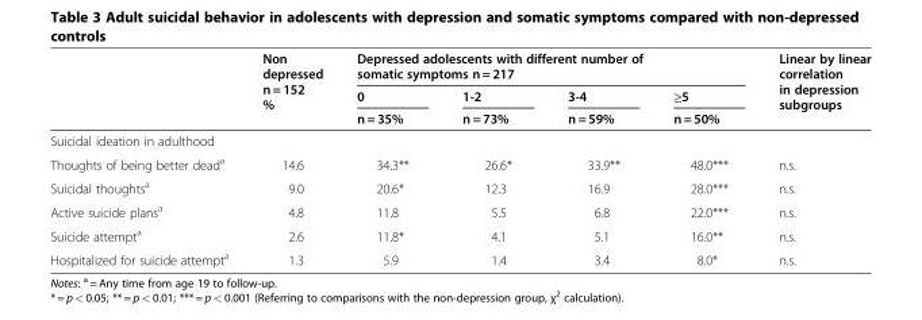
<table><thead><tr><td rowspan="3"></td><td rowspan="3">Non depressed n = 152 %</td><td colspan="4">Depressed adolescents with different number of somatic symptoms n = 217</td><td rowspan="3">Linear by linear correlation in depression subgroups</td></tr><tr><td rowspan="2">0 n = 35%</td><td rowspan="2">1-2 n = 73%</td><td rowspan="2">3-4 n = 59%</td><td rowspan="2">≥5 n = 50%</td></tr><tr></tr></thead><tbody><tr><td colspan="7">Suicidal ideation in adulthood</td></tr><tr><td>Thoughts of being better dead<sup>a</sup></td><td>14.6</td><td>34.3**</td><td>26.6*</td><td>33.9**</td><td>48.0***</td><td>n.s.</td></tr><tr><td>Suicidal thoughts<sup>a</sup></td><td>9.0</td><td>20.6*</td><td>12.3</td><td>16.9</td><td>28.0***</td><td>n.s.</td></tr><tr><td>Active suicide plans<sup>a</sup></td><td>4.8</td><td>11.8</td><td>5.5</td><td>6.8</td><td>22.0***</td><td>n.s.</td></tr><tr><td>Suicide attempt<sup>a</sup></td><td>2.6</td><td>11.8*</td><td>4.1</td><td>5.1</td><td>16.0**</td><td>n.s.</td></tr><tr><td>Hospitalized for suicide attempt<sup>a</sup></td><td>1.3</td><td>5.9</td><td>1.4</td><td>3.4</td><td>8.0*</td><td>n.s.</td></tr></tbody></table>